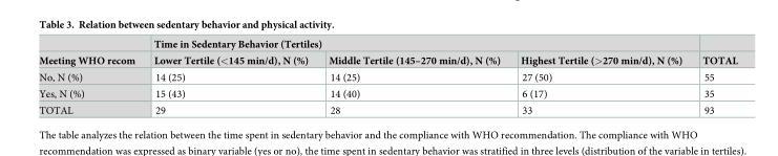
<table><thead><tr><td rowspan="2">Meeting WHO recom</td><td colspan="3">Time in Sedentary Behavior (Tertiles)</td><td rowspan="2">TOTAL</td></tr><tr><td>Lower Tertile (&lt;145 min/d), N (%)</td><td>Middle Tertile (145–270 min/d), N (%)</td><td>Highest Tertile (&gt;270 min/d), N (%)</td></tr></thead><tbody><tr><td>No, N (%)</td><td>14 (25)</td><td>14 (25)</td><td>27 (50)</td><td>55</td></tr><tr><td>Yes, N (%)</td><td>15 (43)</td><td>14 (40)</td><td>6 (17)</td><td>35</td></tr><tr><td>TOTAL</td><td>29</td><td>28</td><td>33</td><td>93</td></tr></tbody></table>